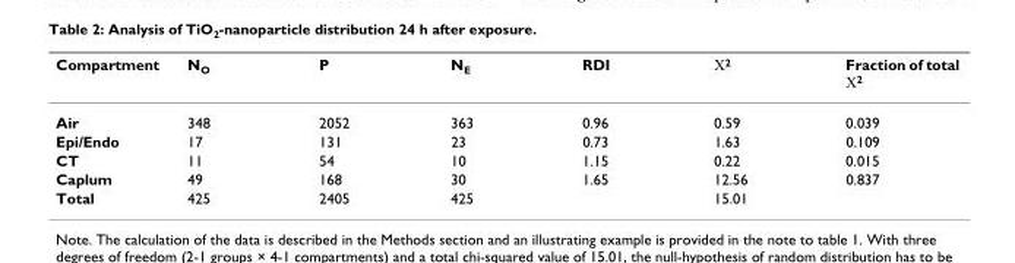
<table><thead><tr><td>Compartment</td><td>N<sub>O</sub></td><td>P</td><td>N<sub>E</sub></td><td>RDI</td><td>Χ<sup>2</sup></td><td>Fraction of total Χ<sup>2</sup></td></tr></thead><tbody><tr><td>Air</td><td>348</td><td>2052</td><td>363</td><td>0.96</td><td>0.59</td><td>0.039</td></tr><tr><td>Epi/Endo</td><td>17</td><td>131</td><td>23</td><td>0.73</td><td>1.63</td><td>0.109</td></tr><tr><td>CT</td><td>11</td><td>54</td><td>10</td><td>1.15</td><td>0.22</td><td>0.015</td></tr><tr><td>Caplum</td><td>49</td><td>168</td><td>30</td><td>1.65</td><td>12.56</td><td>0.837</td></tr><tr><td>Total</td><td>425</td><td>2405</td><td>425</td><td></td><td>15.01</td><td></td></tr></tbody></table>